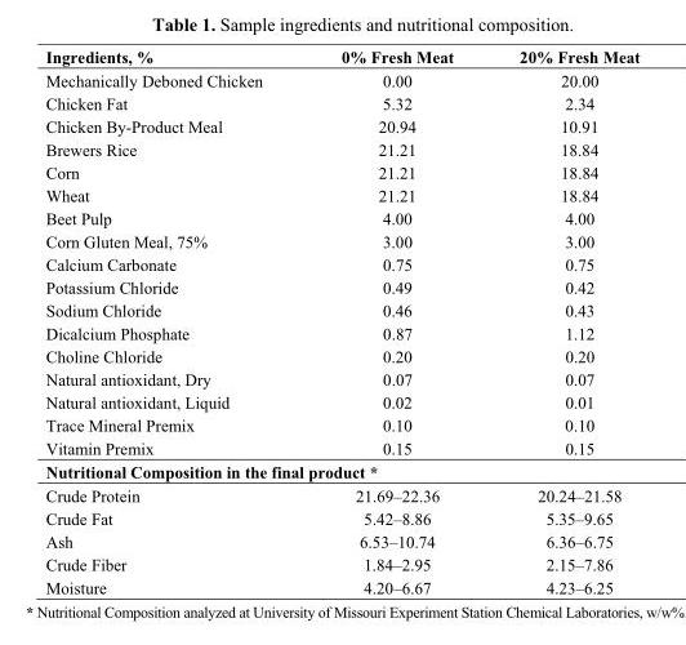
<table><thead><tr><td>Ingredients, %</td><td>0% Fresh Meat</td><td>20% Fresh Meat</td></tr></thead><tbody><tr><td>Mechanically Deboned Chicken</td><td>0.00</td><td>20.00</td></tr><tr><td>Chicken Fat</td><td>5.32</td><td>2.34</td></tr><tr><td>Chicken By-Product Meal</td><td>20.94</td><td>10.91</td></tr><tr><td>Brewers Rice</td><td>21.21</td><td>18.84</td></tr><tr><td>Corn</td><td>21.21</td><td>18.84</td></tr><tr><td>Wheat</td><td>21.21</td><td>18.84</td></tr><tr><td>Beet Pulp</td><td>4.00</td><td>4.00</td></tr><tr><td>Corn Gluten Meal, 75%</td><td>3.00</td><td>3.00</td></tr><tr><td>Calcium Carbonate</td><td>0.75</td><td>0.75</td></tr><tr><td>Potassium Chloride</td><td>0.49</td><td>0.42</td></tr><tr><td>Sodium Chloride</td><td>0.46</td><td>0.43</td></tr><tr><td>Dicalcium Phosphate</td><td>0.87</td><td>1.12</td></tr><tr><td>Choline Chloride</td><td>0.20</td><td>0.20</td></tr><tr><td>Natural antioxidant, Dry</td><td>0.07</td><td>0.07</td></tr><tr><td>Natural antioxidant, Liquid</td><td>0.02</td><td>0.01</td></tr><tr><td>Trace Mineral Premix</td><td>0.10</td><td>0.10</td></tr><tr><td>Vitamin Premix</td><td>0.15</td><td>0.15</td></tr><tr><td colspan="3">Nutritional Composition in the final product *</td></tr><tr><td>Crude Protein</td><td>21.69–22.36</td><td>20.24–21.58</td></tr><tr><td>Crude Fat</td><td>5.42–8.86</td><td>5.35–9.65</td></tr><tr><td>Ash</td><td>6.53–10.74</td><td>6.36–6.75</td></tr><tr><td>Crude Fiber</td><td>1.84–2.95</td><td>2.15–7.86</td></tr><tr><td>Moisture</td><td>4.20–6.67</td><td>4.23–6.25</td></tr></tbody></table>